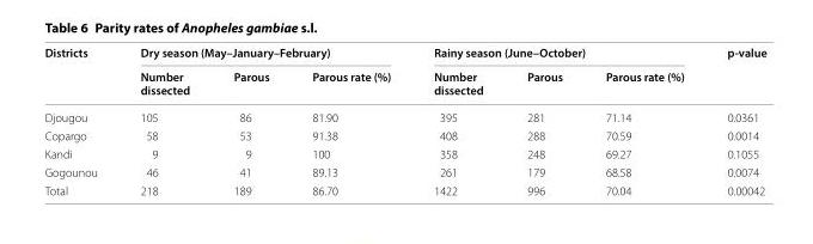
<table><thead><tr><td rowspan="2">Districts</td><td colspan="3">Dry season (May–January–February)</td><td colspan="3">Rainy season (June–October)</td><td rowspan="2">p-value</td></tr><tr><td>Number dissected</td><td>Parous</td><td>Parous rate (%)</td><td>Number dissected</td><td>Parous</td><td>Parous rate (%)</td></tr></thead><tbody><tr><td>Djougou</td><td>105</td><td>86</td><td>81.90</td><td>395</td><td>281</td><td>71.14</td><td>0.0361</td></tr><tr><td>Copargo</td><td>58</td><td>53</td><td>91.38</td><td>408</td><td>288</td><td>70.59</td><td>0.0014</td></tr><tr><td>Kandi</td><td>9</td><td>9</td><td>100</td><td>358</td><td>248</td><td>69.27</td><td>0.1055</td></tr><tr><td>Gogounou</td><td>46</td><td>41</td><td>89.13</td><td>261</td><td>179</td><td>68.58</td><td>0.0074</td></tr><tr><td>Total</td><td>218</td><td>189</td><td>86.70</td><td>1422</td><td>996</td><td>70.04</td><td>0.00042</td></tr></tbody></table>